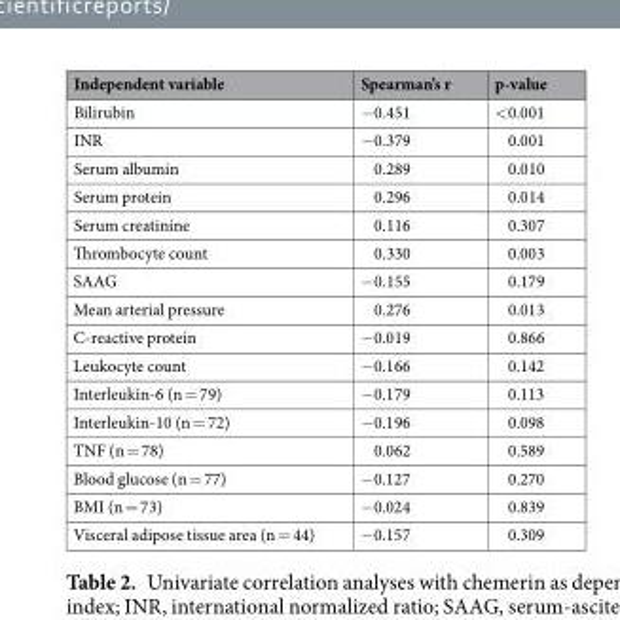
<table><thead><tr><td>Independent variable</td><td>Spearman’s r</td><td>p-value</td></tr></thead><tbody><tr><td>Bilirubin</td><td>−0.451</td><td>&lt;0.001</td></tr><tr><td>INR</td><td>−0.379</td><td>0.001</td></tr><tr><td>Serum albumin</td><td>0.289</td><td>0.010</td></tr><tr><td>Serum protein</td><td>0.296</td><td>0.014</td></tr><tr><td>Serum creatinine</td><td>0.116</td><td>0.307</td></tr><tr><td>Thrombocyte count</td><td>0.330</td><td>0.003</td></tr><tr><td>SAAG</td><td>−0.155</td><td>0.179</td></tr><tr><td>Mean arterial pressure</td><td>0.276</td><td>0.013</td></tr><tr><td>C-reactive protein</td><td>−0.019</td><td>0.866</td></tr><tr><td>Leukocyte count</td><td>−0.166</td><td>0.142</td></tr><tr><td>Interleukin-6 (n = 79)</td><td>−0.179</td><td>0.113</td></tr><tr><td>Interleukin-10 (n = 72)</td><td>−0.196</td><td>0.098</td></tr><tr><td>TNF (n = 78)</td><td>0.062</td><td>0.589</td></tr><tr><td>Blood glucose (n = 77)</td><td>−0.127</td><td>0.270</td></tr><tr><td>BMI (n = 73)</td><td>−0.024</td><td>0.839</td></tr><tr><td>Visceral adipose tissue area (n = 44)</td><td>−0.157</td><td>0.309</td></tr></tbody></table>